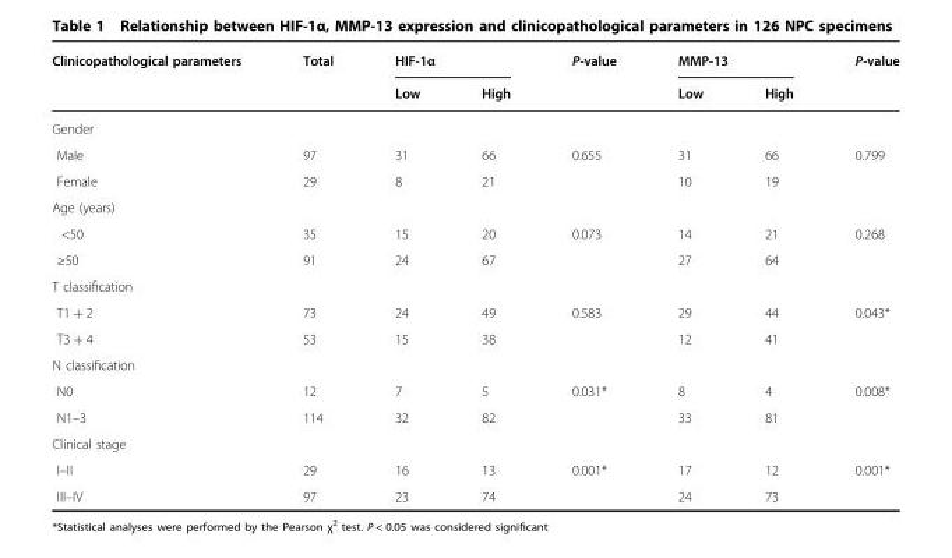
<table><thead><tr><td rowspan="2">Clinicopathological parameters</td><td rowspan="2">Total</td><td colspan="2">HIF-1α</td><td rowspan="2">P-value</td><td colspan="2">MMP-13</td><td rowspan="2">P-value</td></tr><tr><td>Low</td><td>High</td><td>Low</td><td>High</td></tr></thead><tbody><tr><td colspan="8">Gender</td></tr><tr><td>Male</td><td>97</td><td>31</td><td>66</td><td>0.655</td><td>31</td><td>66</td><td>0.799</td></tr><tr><td>Female</td><td>29</td><td>8</td><td>21</td><td></td><td>10</td><td>19</td><td></td></tr><tr><td colspan="8">Age (years)</td></tr><tr><td>&lt;50</td><td>35</td><td>15</td><td>20</td><td>0.073</td><td>14</td><td>21</td><td>0.268</td></tr><tr><td>≥50</td><td>91</td><td>24</td><td>67</td><td></td><td>27</td><td>64</td><td></td></tr><tr><td colspan="8">T classification</td></tr><tr><td>T1 + 2</td><td>73</td><td>24</td><td>49</td><td>0.583</td><td>29</td><td>44</td><td>0.043*</td></tr><tr><td>T3 + 4</td><td>53</td><td>15</td><td>38</td><td></td><td>12</td><td>41</td><td></td></tr><tr><td colspan="8">N classification</td></tr><tr><td>N0</td><td>12</td><td>7</td><td>5</td><td>0.031*</td><td>8</td><td>4</td><td>0.008*</td></tr><tr><td>N1–3</td><td>114</td><td>32</td><td>82</td><td></td><td>33</td><td>81</td><td></td></tr><tr><td colspan="8">Clinical stage</td></tr><tr><td>I–II</td><td>29</td><td>16</td><td>13</td><td>0.001*</td><td>17</td><td>12</td><td>0.001*</td></tr><tr><td>III–IV</td><td>97</td><td>23</td><td>74</td><td></td><td>24</td><td>73</td><td></td></tr></tbody></table>